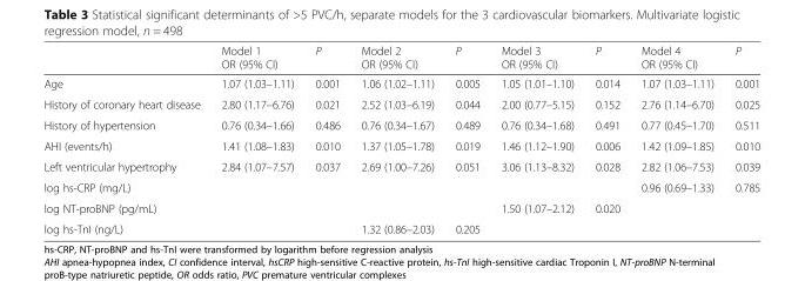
<table><thead><tr><td></td><td>Model 1 OR (95% CI)</td><td>P</td><td>Model 2 OR (95% CI)</td><td>P</td><td>Model 3 OR (95% CI)</td><td>P</td><td>Model 4 OR (95% CI)</td><td>P</td></tr></thead><tbody><tr><td>Age</td><td>1.07 (1.03–1.11)</td><td>0.001</td><td>1.06 (1.02–1.11)</td><td>0.005</td><td>1.05 (1.01–1.10)</td><td>0.014</td><td>1.07 (1.03–1.11)</td><td>0.001</td></tr><tr><td>History of coronary heart disease</td><td>2.80 (1.17–6.76)</td><td>0.021</td><td>2.52 (1.03–6.19)</td><td>0.044</td><td>2.00 (0.77–5.15)</td><td>0.152</td><td>2.76 (1.14–6.70)</td><td>0.025</td></tr><tr><td>History of hypertension</td><td>0.76 (0.34–1.66)</td><td>0.486</td><td>0.76 (0.34–1.67)</td><td>0.489</td><td>0.76 (0.34–1.68)</td><td>0.491</td><td>0.77 (0.45–1.70)</td><td>0.511</td></tr><tr><td>AHI (events/h)</td><td>1.41 (1.08–1.83)</td><td>0.010</td><td>1.37 (1.05–1.78)</td><td>0.019</td><td>1.46 (1.12–1.90)</td><td>0.006</td><td>1.42 (1.09–1.85)</td><td>0.010</td></tr><tr><td>Left ventricular hypertrophy</td><td>2.84 (1.07–7.57)</td><td>0.037</td><td>2.69 (1.00–7.26)</td><td>0.051</td><td>3.06 (1.13–8.32)</td><td>0.028</td><td>2.82 (1.06–7.53)</td><td>0.039</td></tr><tr><td>log hs-CRP (mg/L)</td><td></td><td></td><td></td><td></td><td></td><td></td><td>0.96 (0.69–1.33)</td><td>0.785</td></tr><tr><td>log NT-proBNP (pg/mL)</td><td></td><td></td><td></td><td></td><td>1.50 (1.07–2.12)</td><td>0.020</td><td></td><td></td></tr><tr><td>log hs-TnI (ng/L)</td><td></td><td></td><td>1.32 (0.86–2.03)</td><td>0.205</td><td></td><td></td><td></td><td></td></tr></tbody></table>